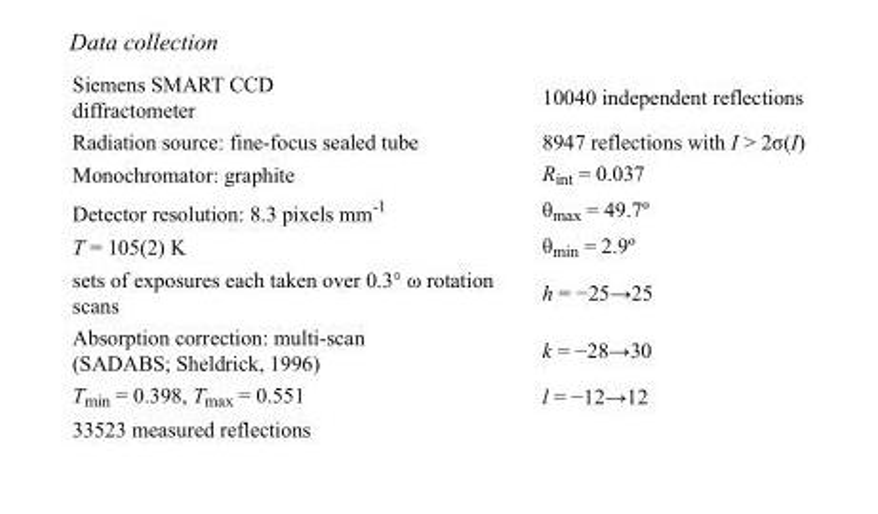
<table><tbody><tr><td>Siemens SMART CCD diffractometer</td><td>10040 independent reflections</td></tr><tr><td>Radiation source: fine-focus sealed tube</td><td>8947 reflections with I &gt; 2σ(I)</td></tr><tr><td>Monochromator: graphite</td><td>R<sub>int</sub> = 0.037</td></tr><tr><td>Detector resolution: 8.3 pixels mm<sup>-1</sup></td><td>θ<sub>max</sub> = 49.7º</td></tr><tr><td>T = 105(2) K</td><td>θ<sub>min</sub> = 2.9º</td></tr><tr><td>sets of exposures each taken over 0.3° ω rotation scans</td><td>h = −25→25</td></tr><tr><td>Absorption correction: multi-scan (SADABS; Sheldrick, 1996)</td><td>k = −28→30</td></tr><tr><td>T<sub>min</sub> = 0.398, T<sub>max</sub> = 0.551</td><td>l = −12→12</td></tr><tr><td>33523 measured reflections</td><td></td></tr></tbody></table>